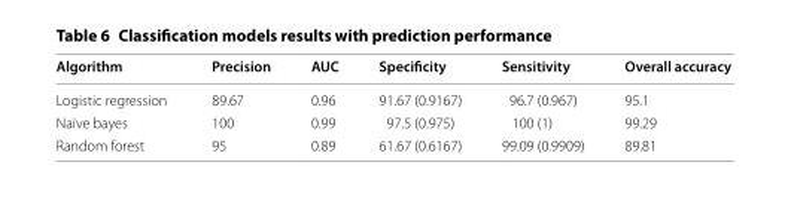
<table><thead><tr><td>Algorithm</td><td>Precision</td><td>AUC</td><td>Specificity</td><td>Sensitivity</td><td>Overall accuracy</td></tr></thead><tbody><tr><td>Logistic regression</td><td>89.67</td><td>0.96</td><td>91.67 (0.9167)</td><td>96.7 (0.967)</td><td>95.1</td></tr><tr><td>Naïve bayes</td><td>100</td><td>0.99</td><td>97.5 (0.975)</td><td>100 (1)</td><td>99.29</td></tr><tr><td>Random forest</td><td>95</td><td>0.89</td><td>61.67 (0.6167)</td><td>99.09 (0.9909)</td><td>89.81</td></tr></tbody></table>